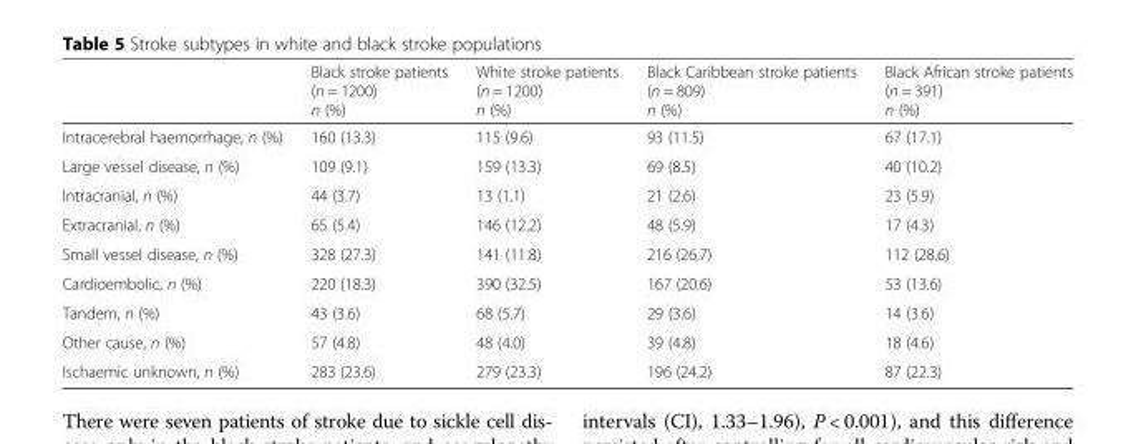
<table><thead><tr><td></td><td>Black stroke patients (n = 1200) n (%)</td><td>White stroke patients (n = 1200) n (%)</td><td>Black Caribbean stroke patients (n = 809) n (%)</td><td>Black African stroke patients (n = 391) n (%)</td></tr></thead><tbody><tr><td>Intracerebral haemorrhage, n (%)</td><td>160 (13.3)</td><td>115 (9.6)</td><td>93 (11.5)</td><td>67 (17.1)</td></tr><tr><td>Large vessel disease, n (%)</td><td>109 (9.1)</td><td>159 (13.3)</td><td>69 (8.5)</td><td>40 (10.2)</td></tr><tr><td>Intracranial, n (%)</td><td>44 (3.7)</td><td>13 (1.1)</td><td>21 (2.6)</td><td>23 (5.9)</td></tr><tr><td>Extracranial, n (%)</td><td>65 (5.4)</td><td>146 (12.2)</td><td>48 (5.9)</td><td>17 (4.3)</td></tr><tr><td>Small vessel disease, n (%)</td><td>328 (27.3)</td><td>141 (11.8)</td><td>216 (26.7)</td><td>112 (28.6)</td></tr><tr><td>Cardioembolic, n (%)</td><td>220 (18.3)</td><td>390 (32.5)</td><td>167 (20.6)</td><td>53 (13.6)</td></tr><tr><td>Tandem, n (%)</td><td>43 (3.6)</td><td>68 (5.7)</td><td>29 (3.6)</td><td>14 (3.6)</td></tr><tr><td>Other cause, n (%)</td><td>57 (4.8)</td><td>48 (4.0)</td><td>39 (4.8)</td><td>18 (4.6)</td></tr><tr><td>Ischaemic unknown, n (%)</td><td>283 (23.6)</td><td>279 (23.3)</td><td>196 (24.2)</td><td>87 (22.3)</td></tr></tbody></table>